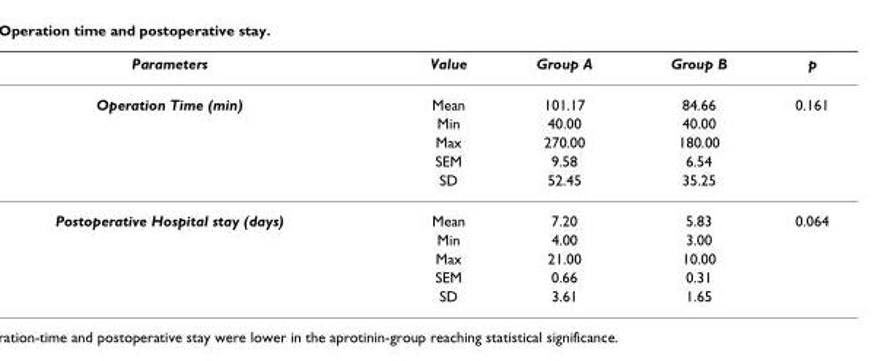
<table><thead><tr><td>Parameters</td><td>Value</td><td>Group A</td><td>Group B</td><td>p</td></tr></thead><tbody><tr><td rowspan="5">Operation Time (min)</td><td>Mean</td><td>101.17</td><td>84.66</td><td>0.161</td></tr><tr><td>Min</td><td>40.00</td><td>40.00</td><td></td></tr><tr><td>Max</td><td>270.00</td><td>180.00</td><td></td></tr><tr><td>SEM</td><td>9.58</td><td>6.54</td><td></td></tr><tr><td>SD</td><td>52.45</td><td>35.25</td><td></td></tr><tr><td rowspan="5">Postoperative Hospital stay (days)</td><td>Mean</td><td>7.20</td><td>5.83</td><td>0.064</td></tr><tr><td>Min</td><td>4.00</td><td>3.00</td><td></td></tr><tr><td>Max</td><td>21.00</td><td>10.00</td><td></td></tr><tr><td>SEM</td><td>0.66</td><td>0.31</td><td></td></tr><tr><td>SD</td><td>3.61</td><td>1.65</td><td></td></tr></tbody></table>